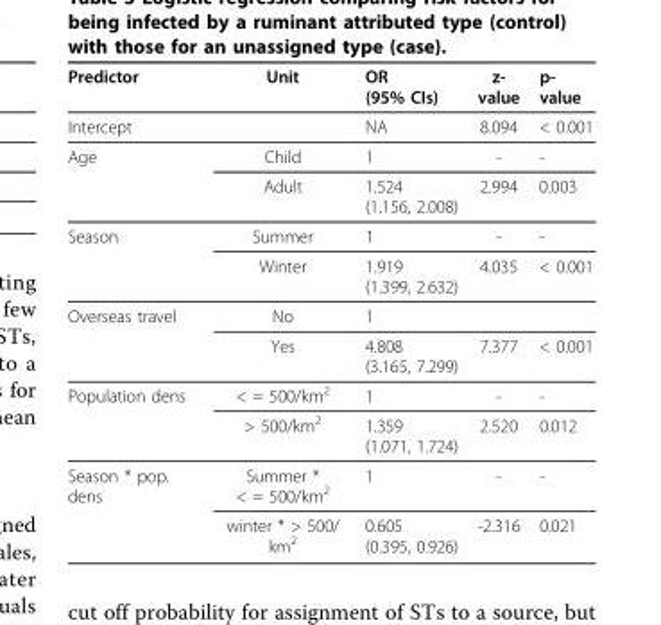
<table><thead><tr><td>Predictor</td><td>Unit</td><td>OR (95% CIs)</td><td>z- value</td><td>p- value</td></tr></thead><tbody><tr><td>Intercept</td><td></td><td>NA</td><td>8.094</td><td>&lt; 0.001</td></tr><tr><td rowspan="2">Age</td><td>Child</td><td>1</td><td>-</td><td>-</td></tr><tr><td>Adult</td><td>1.524 (1.156, 2.008)</td><td>2.994</td><td>0.003</td></tr><tr><td rowspan="2">Season</td><td>Summer</td><td>1</td><td>-</td><td>-</td></tr><tr><td>Winter</td><td>1.919 (1.399, 2.632)</td><td>4.035</td><td>&lt; 0.001</td></tr><tr><td rowspan="2">Overseas travel</td><td>No</td><td>1</td><td></td><td></td></tr><tr><td>Yes</td><td>4.808 (3.165, 7.299)</td><td>7.377</td><td>&lt; 0.001</td></tr><tr><td rowspan="2">Population dens</td><td>&lt; = 500/km<sup>2</sup></td><td>1</td><td>-</td><td>-</td></tr><tr><td>&gt; 500/km<sup>2</sup></td><td>1.359 (1.071, 1.724)</td><td>2.520</td><td>0.012</td></tr><tr><td rowspan="2">Season * pop. dens</td><td>Summer * &lt; = 500/km<sup>2</sup></td><td>1</td><td>-</td><td>-</td></tr><tr><td>winter * &gt; 500/ km<sup>2</sup></td><td>0.605 (0.395, 0.926)</td><td>-2.316</td><td>0.021</td></tr></tbody></table>